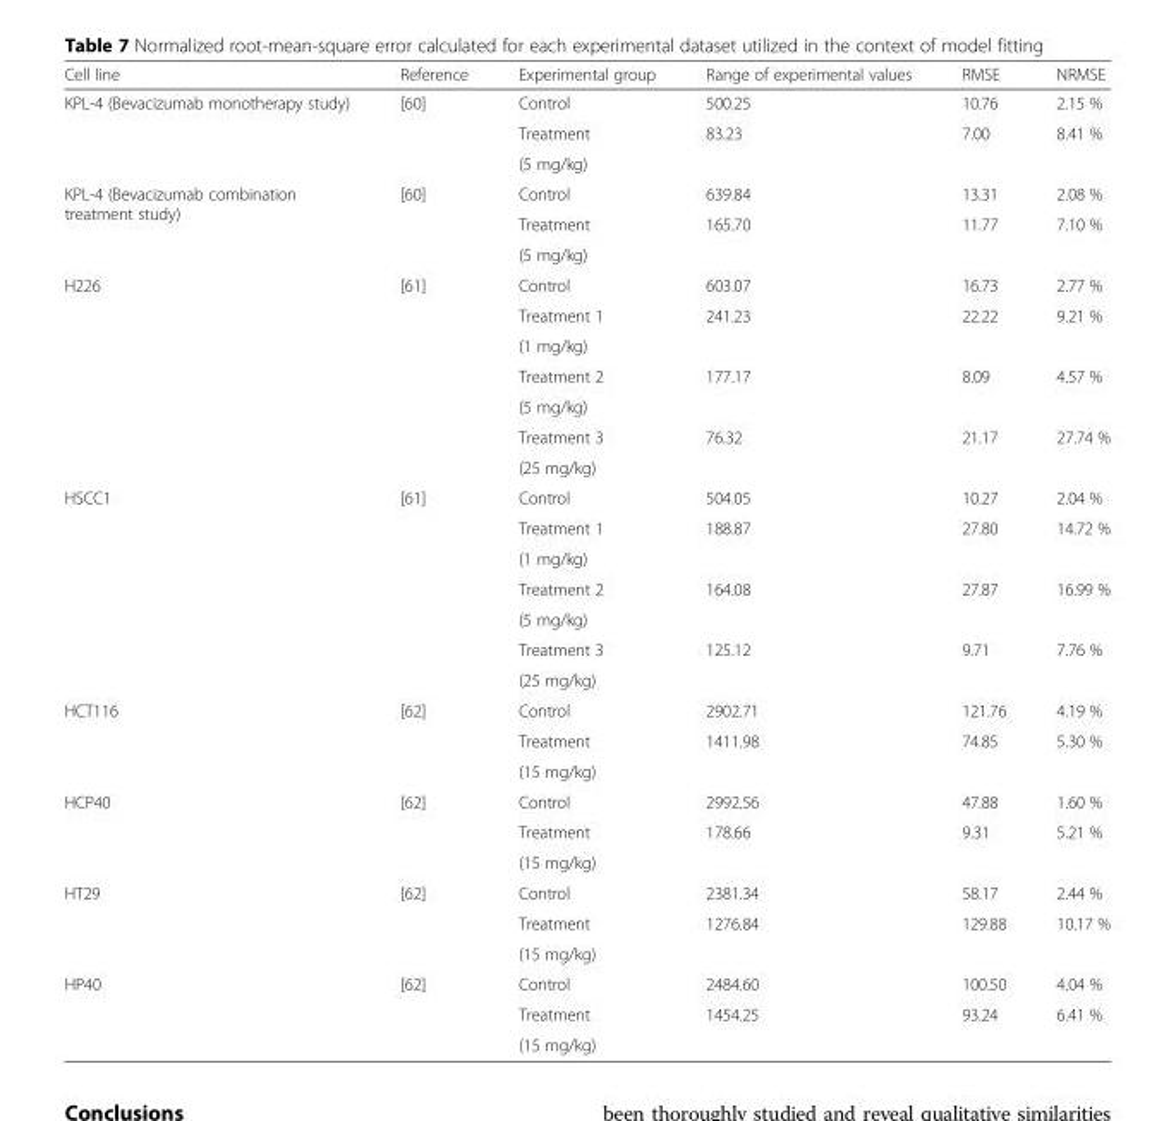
<table><thead><tr><td>Cell line</td><td>Reference</td><td>Experimental group</td><td>Range of experimental values</td><td>RMSE</td><td>NRMSE</td></tr></thead><tbody><tr><td rowspan="3">KPL-4 (Bevacizumab monotherapy study)</td><td rowspan="3">[60]</td><td>Control</td><td>500.25</td><td>10.76</td><td>2.15 %</td></tr><tr><td>Treatment</td><td rowspan="2">83.23</td><td rowspan="2">7.00</td><td rowspan="2">8.41 %</td></tr><tr><td>(5 mg/kg)</td></tr><tr><td rowspan="3">KPL-4 (Bevacizumab combination treatment study)</td><td rowspan="3">[60]</td><td>Control</td><td>639.84</td><td>13.31</td><td>2.08 %</td></tr><tr><td>Treatment</td><td rowspan="2">165.70</td><td rowspan="2">11.77</td><td rowspan="2">7.10 %</td></tr><tr><td>(5 mg/kg)</td></tr><tr><td rowspan="7">H226</td><td rowspan="7">[61]</td><td>Control</td><td>603.07</td><td>16.73</td><td>2.77 %</td></tr><tr><td>Treatment 1</td><td rowspan="2">241.23</td><td rowspan="2">22.22</td><td rowspan="2">9.21 %</td></tr><tr><td>(1 mg/kg)</td></tr><tr><td>Treatment 2</td><td rowspan="2">177.17</td><td rowspan="2">8.09</td><td rowspan="2">4.57 %</td></tr><tr><td>(5 mg/kg)</td></tr><tr><td>Treatment 3</td><td rowspan="2">76.32</td><td rowspan="2">21.17</td><td rowspan="2">27.74 %</td></tr><tr><td>(25 mg/kg)</td></tr><tr><td rowspan="7">HSCC1</td><td rowspan="7">[61]</td><td>Control</td><td>504.05</td><td>10.27</td><td>2.04 %</td></tr><tr><td>Treatment 1</td><td rowspan="2">188.87</td><td rowspan="2">27.80</td><td rowspan="2">14.72 %</td></tr><tr><td>(1 mg/kg)</td></tr><tr><td>Treatment 2</td><td rowspan="2">164.08</td><td rowspan="2">27.87</td><td rowspan="2">16.99 %</td></tr><tr><td>(5 mg/kg)</td></tr><tr><td>Treatment 3</td><td rowspan="2">125.12</td><td rowspan="2">9.71</td><td rowspan="2">7.76 %</td></tr><tr><td>(25 mg/kg)</td></tr><tr><td rowspan="3">HCT116</td><td rowspan="3">[62]</td><td>Control</td><td>2902.71</td><td>121.76</td><td>4.19 %</td></tr><tr><td>Treatment</td><td rowspan="2">1411.98</td><td rowspan="2">74.85</td><td rowspan="2">5.30 %</td></tr><tr><td>(15 mg/kg)</td></tr><tr><td rowspan="3">HCP40</td><td rowspan="3">[62]</td><td>Control</td><td>2992.56</td><td>47.88</td><td>1.60 %</td></tr><tr><td>Treatment</td><td rowspan="2">178.66</td><td rowspan="2">9.31</td><td rowspan="2">5.21 %</td></tr><tr><td>(15 mg/kg)</td></tr><tr><td rowspan="3">HT29</td><td rowspan="3">[62]</td><td>Control</td><td>2381.34</td><td>58.17</td><td>2.44 %</td></tr><tr><td>Treatment</td><td rowspan="2">1276.84</td><td rowspan="2">129.88</td><td rowspan="2">10.17 %</td></tr><tr><td>(15 mg/kg)</td></tr><tr><td rowspan="3">HP40</td><td rowspan="3">[62]</td><td>Control</td><td>2484.60</td><td>100.50</td><td>4.04 %</td></tr><tr><td>Treatment</td><td rowspan="2">1454.25</td><td rowspan="2">93.24</td><td rowspan="2">6.41 %</td></tr><tr><td>(15 mg/kg)</td></tr></tbody></table>